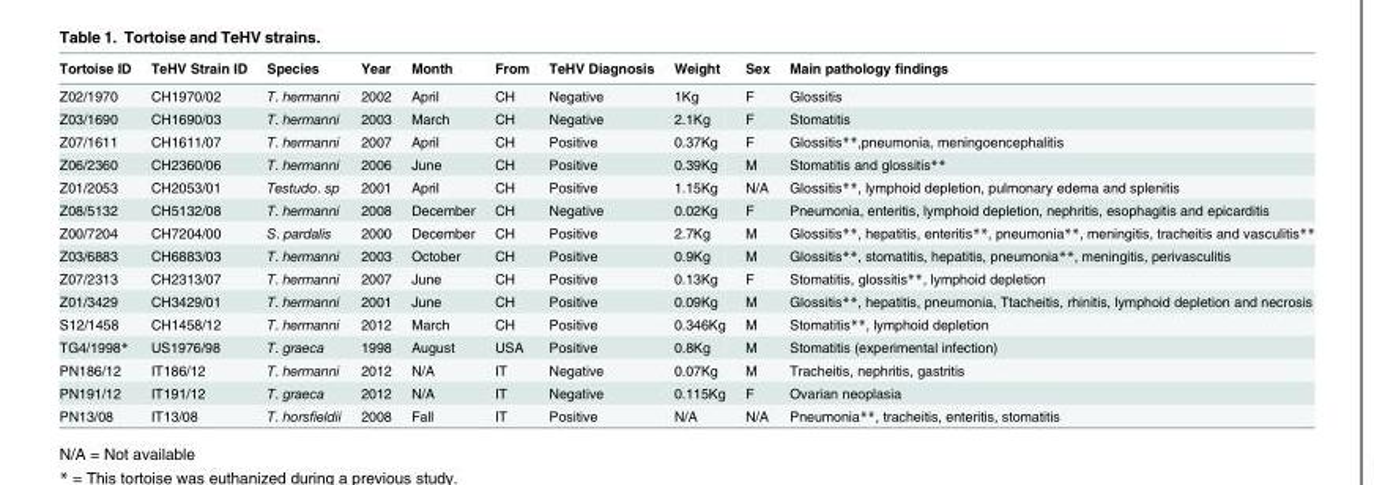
<table><thead><tr><td>Tortoise ID</td><td>TeHV Strain ID</td><td>Species</td><td>Year</td><td>Month</td><td>From</td><td>TeHV Diagnosis</td><td>Weight</td><td>Sex</td><td>Main pathology findings</td></tr></thead><tbody><tr><td>Z02/1970</td><td>CH1970/02</td><td>T. hermanni</td><td>2002</td><td>April</td><td>CH</td><td>Negative</td><td>1Kg</td><td>F</td><td>Glossitis</td></tr><tr><td>Z03/1690</td><td>CH1690/03</td><td>T. hermanni</td><td>2003</td><td>March</td><td>CH</td><td>Negative</td><td>2.1Kg</td><td>F</td><td>Stomatitis</td></tr><tr><td>Z07/1611</td><td>CH1611/07</td><td>T. hermanni</td><td>2007</td><td>April</td><td>CH</td><td>Positive</td><td>0.37Kg</td><td>F</td><td>Glossitis**,pneumonia, meningoencephalitis</td></tr><tr><td>Z06/2360</td><td>CH2360/06</td><td>T. hermanni</td><td>2006</td><td>June</td><td>CH</td><td>Positive</td><td>0.39Kg</td><td>M</td><td>Stomatitis and glossitis**</td></tr><tr><td>Z01/2053</td><td>CH2053/01</td><td>Testudo. sp</td><td>2001</td><td>April</td><td>CH</td><td>Positive</td><td>1.15Kg</td><td>N/A</td><td>Glossitis**, lymphoid depletion, pulmonary edema and splenitis</td></tr><tr><td>Z08/5132</td><td>CH5132/08</td><td>T. hermanni</td><td>2008</td><td>December</td><td>CH</td><td>Negative</td><td>0.02Kg</td><td>F</td><td>Pneumonia, enteritis, lymphoid depletion, nephritis, esophagitis and epicarditis</td></tr><tr><td>Z00/7204</td><td>CH7204/00</td><td>S. pardalis</td><td>2000</td><td>December</td><td>CH</td><td>Positive</td><td>2.7Kg</td><td>M</td><td>Glossitis**, hepatitis, enteritis**, pneumonia**, meningitis, tracheitis and vasculitis**</td></tr><tr><td>Z03/6883</td><td>CH6883/03</td><td>T. hermanni</td><td>2003</td><td>October</td><td>CH</td><td>Positive</td><td>0.9Kg</td><td>M</td><td>Glossitis**, stomatitis, hepatitis, pneumonia**, meningitis, perivasculitis</td></tr><tr><td>Z07/2313</td><td>CH2313/07</td><td>T. hermanni</td><td>2007</td><td>June</td><td>CH</td><td>Positive</td><td>0.13Kg</td><td>F</td><td>Stomatitis, glossitis**, lymphoid depletion</td></tr><tr><td>Z01/3429</td><td>CH3429/01</td><td>T. hermanni</td><td>2001</td><td>June</td><td>CH</td><td>Positive</td><td>0.09Kg</td><td>M</td><td>Glossitis**, hepatitis, pneumonia, Ttacheitis, rhinitis, lymphoid depletion and necrosis</td></tr><tr><td>S12/1458</td><td>CH1458/12</td><td>T. hermanni</td><td>2012</td><td>March</td><td>CH</td><td>Positive</td><td>0.346Kg</td><td>M</td><td>Stomatitis**, lymphoid depletion</td></tr><tr><td>TG4/1998*</td><td>US1976/98</td><td>T. graeca</td><td>1998</td><td>August</td><td>USA</td><td>Positive</td><td>0.8Kg</td><td>M</td><td>Stomatitis (experimental infection)</td></tr><tr><td>PN186/12</td><td>IT186/12</td><td>T. hermanni</td><td>2012</td><td>N/A</td><td>IT</td><td>Negative</td><td>0.07Kg</td><td>M</td><td>Tracheitis, nephritis, gastritis</td></tr><tr><td>PN191/12</td><td>IT191/12</td><td>T. graeca</td><td>2012</td><td>N/A</td><td>IT</td><td>Negative</td><td>0.115Kg</td><td>F</td><td>Ovarian neoplasia</td></tr><tr><td>PN13/08</td><td>IT13/08</td><td>T. horsfieldii</td><td>2008</td><td>Fall</td><td>IT</td><td>Positive</td><td>N/A</td><td>N/A</td><td>Pneumonia**, tracheitis, enteritis, stomatitis</td></tr></tbody></table>